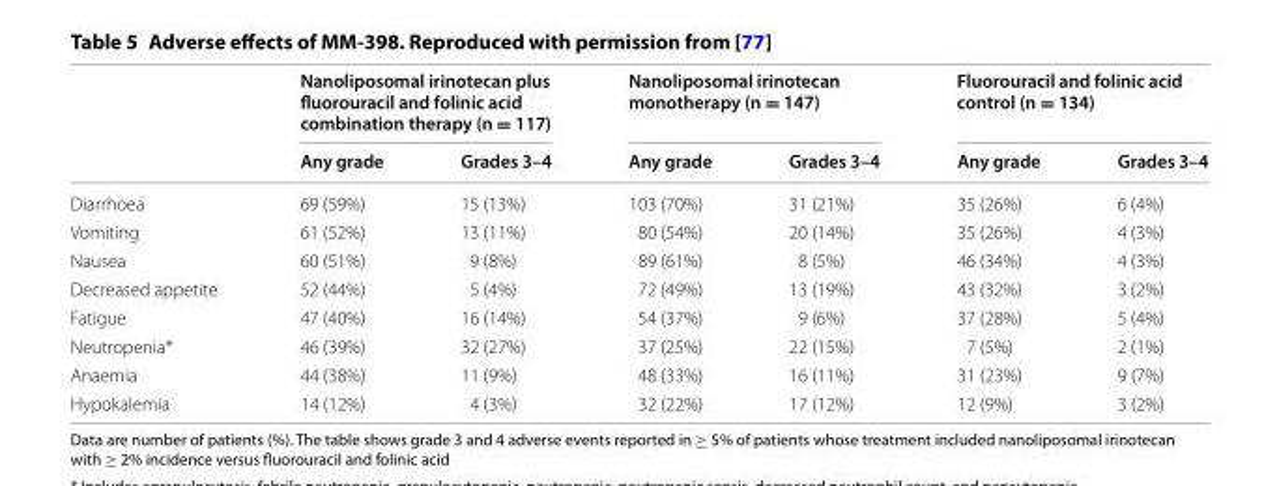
<table><thead><tr><td rowspan="2"></td><td colspan="2">Nanoliposomal irinotecan plus fluorouracil and folinic acid combination therapy (n = 117)</td><td colspan="2">Nanoliposomal irinotecan monotherapy (n = 147)</td><td colspan="2">Fluorouracil and folinic acid control (n = 134)</td></tr><tr><td>Any grade</td><td>Grades 3–4</td><td>Any grade</td><td>Grades 3–4</td><td>Any grade</td><td>Grades 3–4</td></tr></thead><tbody><tr><td>Diarrhoea</td><td>69 (59%)</td><td>15 (13%)</td><td>103 (70%)</td><td>31 (21%)</td><td>35 (26%)</td><td>6 (4%)</td></tr><tr><td>Vomiting</td><td>61 (52%)</td><td>13 (11%)</td><td>80 (54%)</td><td>20 (14%)</td><td>35 (26%)</td><td>4 (3%)</td></tr><tr><td>Nausea</td><td>60 (51%)</td><td>9 (8%)</td><td>89 (61%)</td><td>8 (5%)</td><td>46 (34%)</td><td>4 (3%)</td></tr><tr><td>Decreased appetite</td><td>52 (44%)</td><td>5 (4%)</td><td>72 (49%)</td><td>13 (19%)</td><td>43 (32%)</td><td>3 (2%)</td></tr><tr><td>Fatigue</td><td>47 (40%)</td><td>16 (14%)</td><td>54 (37%)</td><td>9 (6%)</td><td>37 (28%)</td><td>5 (4%)</td></tr><tr><td>Neutropenia*</td><td>46 (39%)</td><td>32 (27%)</td><td>37 (25%)</td><td>22 (15%)</td><td>7 (5%)</td><td>2 (1%)</td></tr><tr><td>Anaemia</td><td>44 (38%)</td><td>11 (9%)</td><td>48 (33%)</td><td>16 (11%)</td><td>31 (23%)</td><td>9 (7%)</td></tr><tr><td>Hypokalemia</td><td>14 (12%)</td><td>4 (3%)</td><td>32 (22%)</td><td>17 (12%)</td><td>12 (9%)</td><td>3 (2%)</td></tr></tbody></table>